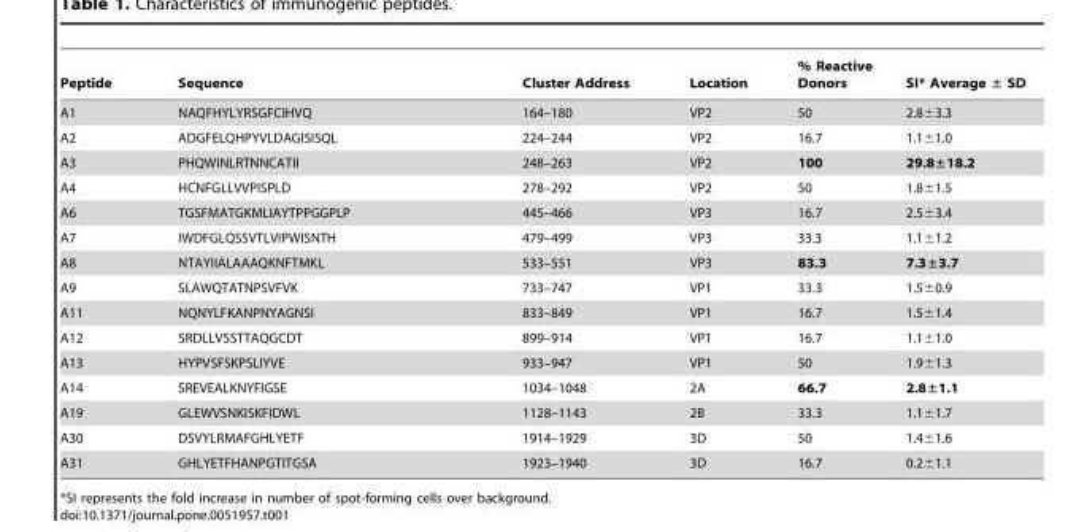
<table><thead><tr><td>Peptide</td><td>Sequence</td><td>Cluster Address</td><td>Location</td><td>% Reactive Donors</td><td>SI* Average ± SD</td></tr></thead><tbody><tr><td>A1</td><td>NAQFHYLYRSGFCIHVQ</td><td>164–180</td><td>VP2</td><td>50</td><td>2.8±3.3</td></tr><tr><td>A2</td><td>ADGFELQHPYVLDAGISISQL</td><td>224–244</td><td>VP2</td><td>16.7</td><td>1.1±1.0</td></tr><tr><td>A3</td><td>PHQWINLRTNNCATII</td><td>248–263</td><td>VP2</td><td>100</td><td>29.8±18.2</td></tr><tr><td>A4</td><td>HCNFGLLVVPISPLD</td><td>278–292</td><td>VP2</td><td>50</td><td>1.8±1.5</td></tr><tr><td>A6</td><td>TGSFMATGKMLIAYTPPGGPLP</td><td>445–466</td><td>VP3</td><td>16.7</td><td>2.5±3.4</td></tr><tr><td>A7</td><td>IWDFGLQSSVTLVIPWISNTH</td><td>479–499</td><td>VP3</td><td>33.3</td><td>1.1±1.2</td></tr><tr><td>A8</td><td>NTAYIIALAAAQKNFTMKL</td><td>533–551</td><td>VP3</td><td>83.3</td><td>7.3±3.7</td></tr><tr><td>A9</td><td>SLAWQTATNPSVFVK</td><td>733–747</td><td>VP1</td><td>33.3</td><td>1.5±0.9</td></tr><tr><td>A11</td><td>NQNYLFKANPNYAGNSI</td><td>833–849</td><td>VP1</td><td>16.7</td><td>1.5±1.4</td></tr><tr><td>A12</td><td>SRDLLVSSTTAQGCDT</td><td>899–914</td><td>VP1</td><td>16.7</td><td>1.1±1.0</td></tr><tr><td>A13</td><td>HYPVSFSKPSLIYVE</td><td>933–947</td><td>VP1</td><td>50</td><td>1.9±1.3</td></tr><tr><td>A14</td><td>SREVEALKNYFIGSE</td><td>1034–1048</td><td>2A</td><td>66.7</td><td>2.8±1.1</td></tr><tr><td>A19</td><td>GLEWVSNKISKFIDWL</td><td>1128–1143</td><td>2B</td><td>33.3</td><td>1.1±1.7</td></tr><tr><td>A30</td><td>DSVYLRMAFGHLYETF</td><td>1914–1929</td><td>3D</td><td>50</td><td>1.4±1.6</td></tr><tr><td>A31</td><td>GHLYETFHANPGTITGSA</td><td>1923–1940</td><td>3D</td><td>16.7</td><td>0.2±1.1</td></tr></tbody></table>